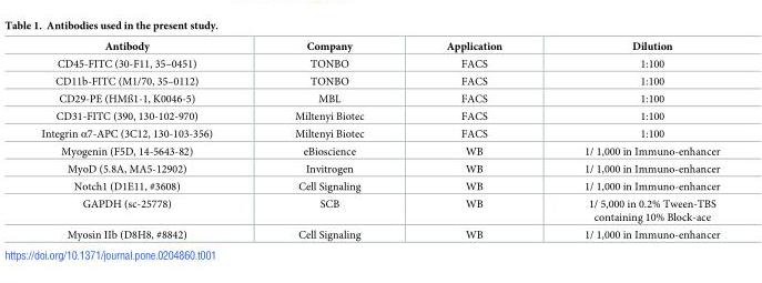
<table><thead><tr><td>Antibody</td><td>Company</td><td>Application</td><td>Dilution</td></tr></thead><tbody><tr><td>CD45-FITC (30-F11, 35–0451)</td><td>TONBO</td><td>FACS</td><td>1:100</td></tr><tr><td>CD11b-FITC (M1/70, 35–0112)</td><td>TONBO</td><td>FACS</td><td>1:100</td></tr><tr><td>CD29-PE (HMß1-1, K0046-5)</td><td>MBL</td><td>FACS</td><td>1:100</td></tr><tr><td>CD31-FITC (390, 130-102-970)</td><td>Miltenyi Biotec</td><td>FACS</td><td>1:100</td></tr><tr><td>Integrin α7-APC (3C12, 130-103-356)</td><td>Miltenyi Biotec</td><td>FACS</td><td>1:100</td></tr><tr><td>Myogenin (F5D, 14-5643-82)</td><td>eBioscience</td><td>WB</td><td>1/ 1,000 in Immuno-enhancer</td></tr><tr><td>MyoD (5.8A, MA5-12902)</td><td>Invitrogen</td><td>WB</td><td>1/ 1,000 in Immuno-enhancer</td></tr><tr><td>Notch1 (D1E11, #3608)</td><td>Cell Signaling</td><td>WB</td><td>1/ 1,000 in Immuno-enhancer</td></tr><tr><td>GAPDH (sc-25778)</td><td>SCB</td><td>WB</td><td>1/ 5,000 in 0.2% Tween-TBS containing 10% Block-ace</td></tr><tr><td>Myosin IIb (D8H8, #8842)</td><td>Cell Signaling</td><td>WB</td><td>1/ 1,000 in Immuno-enhancer</td></tr></tbody></table>